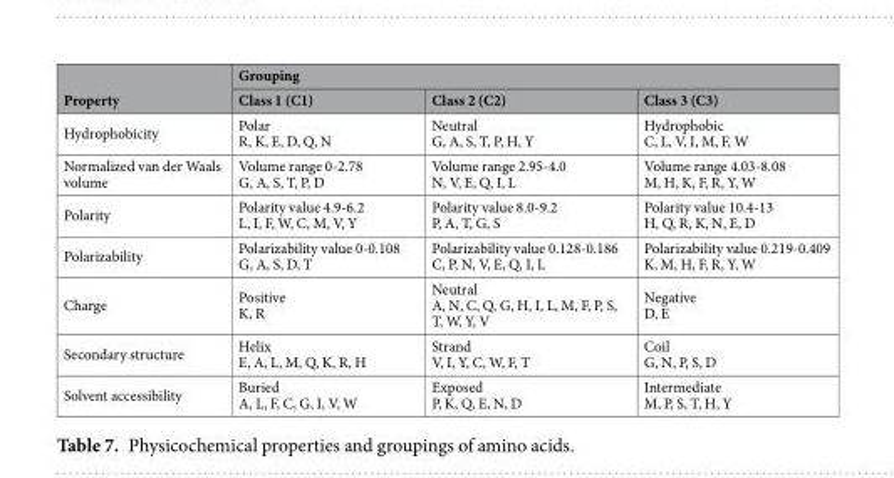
<table><thead><tr><td rowspan="2">Property</td><td colspan="3">Grouping</td></tr><tr><td>Class 1 (C1)</td><td>Class 2 (C2)</td><td>Class 3 (C3)</td></tr></thead><tbody><tr><td>Hydrophobicity</td><td>Polar R, K, E, D, Q, N</td><td>Neutral G, A, S, T, P, H, Y</td><td>Hydrophobic C, L, V, I, M, F, W</td></tr><tr><td>Normalized van der Waals volume</td><td>Volume range 0-2.78 G, A, S, T, P, D</td><td>Volume range 2.95-4.0 N, V, E, Q, I, L</td><td>Volume range 4.03-8.08 M, H, K, F, R, Y, W</td></tr><tr><td>Polarity</td><td>Polarity value 4.9-6.2 L, I, F, W, C, M, V, Y</td><td>Polarity value 8.0-9.2 P, A, T, G, S</td><td>Polarity value 10.4-13 H, Q, R, K, N, E, D</td></tr><tr><td>Polarizability</td><td>Polarizability value 0-0.108 G, A, S, D, T</td><td>Polarizability value 0.128-0.186 C, P, N, V, E, Q, I, L</td><td>Polarizability value 0.219-0.409 K, M, H, F, R, Y, W</td></tr><tr><td>Charge</td><td>Positive K, R</td><td>Neutral A, N, C, Q, G, H, I, L, M, F, P, S, T, W, Y, V</td><td>Negative D, E</td></tr><tr><td>Secondary structure</td><td>Helix E, A, L, M, Q, K, R, H</td><td>Strand V, I, Y, C, W, F, T</td><td>Coil G, N, P, S, D</td></tr><tr><td>Solvent accessibility</td><td>Buried A, L, F, C, G, I, V, W</td><td>Exposed P, K, Q, E, N, D</td><td>Intermediate M, P, S, T, H, Y</td></tr></tbody></table>